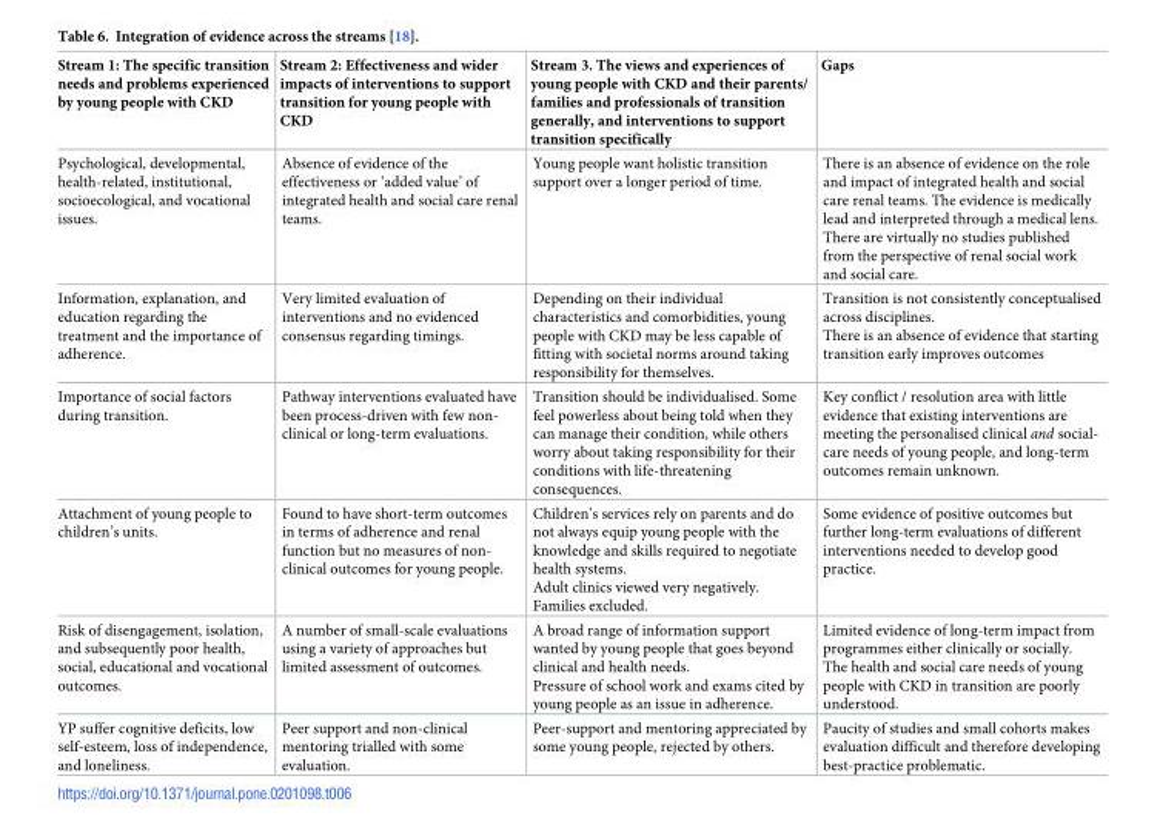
<table><thead><tr><td>Stream 1: The specific transition needs and problems experienced by young people with CKD</td><td>Stream 2: Effectiveness and wider impacts of interventions to support transition for young people with CKD</td><td>Stream 3. The views and experiences of young people with CKD and their parents/ families and professionals of transition generally, and interventions to support transition specifically</td><td>Gaps</td></tr></thead><tbody><tr><td>Psychological, developmental, health-related, institutional, socioecological, and vocational issues.</td><td>Absence of evidence of the effectiveness or ‘added value’ of integrated health and social care renal teams.</td><td>Young people want holistic transition support over a longer period of time.</td><td>There is an absence of evidence on the role and impact of integrated health and social care renal teams. The evidence is medically lead and interpreted through a medical lens. There are virtually no studies published from the perspective of renal social work and social care.</td></tr><tr><td>Information, explanation, and education regarding the treatment and the importance of adherence.</td><td>Very limited evaluation of interventions and no evidenced consensus regarding timings.</td><td>Depending on their individual characteristics and comorbidities, young people with CKD may be less capable of fitting with societal norms around taking responsibility for themselves.</td><td>Transition is not consistently conceptualised across disciplines. There is an absence of evidence that starting transition early improves outcomes</td></tr><tr><td>Importance of social factors during transition.</td><td>Pathway interventions evaluated have been process-driven with few non- clinical or long-term evaluations.</td><td>Transition should be individualised. Some feel powerless about being told when they can manage their condition, while others worry about taking responsibility for their conditions with life-threatening consequences.</td><td>Key conflict / resolution area with little evidence that existing interventions are meeting the personalised clinical and social- care needs of young people, and long-term outcomes remain unknown.</td></tr><tr><td>Attachment of young people to children’s units.</td><td>Found to have short-term outcomes in terms of adherence and renal function but no measures of non- clinical outcomes for young people.</td><td>Children’s services rely on parents and do not always equip young people with the knowledge and skills required to negotiate health systems. Adult clinics viewed very negatively. Families excluded.</td><td>Some evidence of positive outcomes but further long-term evaluations of different interventions needed to develop good practice.</td></tr><tr><td>Risk of disengagement, isolation, and subsequently poor health, social, educational and vocational outcomes.</td><td>A number of small-scale evaluations using a variety of approaches but limited assessment of outcomes.</td><td>A broad range of information support wanted by young people that goes beyond clinical and health needs. Pressure of school work and exams cited by young people as an issue in adherence.</td><td>Limited evidence of long-term impact from programmes either clinically or socially. The health and social care needs of young people with CKD in transition are poorly understood.</td></tr><tr><td>YP suffer cognitive deficits, low self-esteem, loss of independence, and loneliness.</td><td>Peer support and non-clinical mentoring trialled with some evaluation.</td><td>Peer-support and mentoring appreciated by some young people, rejected by others.</td><td>Paucity of studies and small cohorts makes evaluation difficult and therefore developing best-practice problematic.</td></tr></tbody></table>